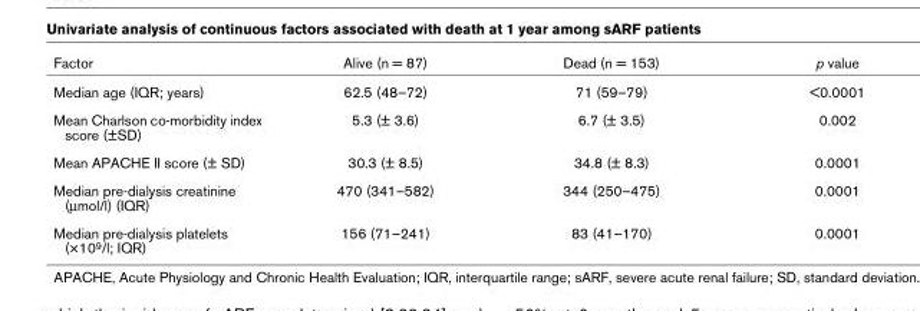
<table><thead><tr><td>Factor</td><td>Alive (n = 87)</td><td>Dead (n = 153)</td><td>p value</td></tr></thead><tbody><tr><td>Median age (IQR; years)</td><td>62.5 (48–72)</td><td>71 (59–79)</td><td>&lt;0.0001</td></tr><tr><td>Mean Charlson co-morbidity index score (±SD)</td><td>5.3 (± 3.6)</td><td>6.7 (± 3.5)</td><td>0.002</td></tr><tr><td>Mean APACHE II score (± SD)</td><td>30.3 (± 8.5)</td><td>34.8 (± 8.3)</td><td>0.0001</td></tr><tr><td>Median pre-dialysis creatinine (µmol/l) (IQR)</td><td>470 (341–582)</td><td>344 (250–475)</td><td>0.0001</td></tr><tr><td>Median pre-dialysis platelets (×109/l; IQR)</td><td>156 (71–241)</td><td>83 (41–170)</td><td>0.0001</td></tr></tbody></table>